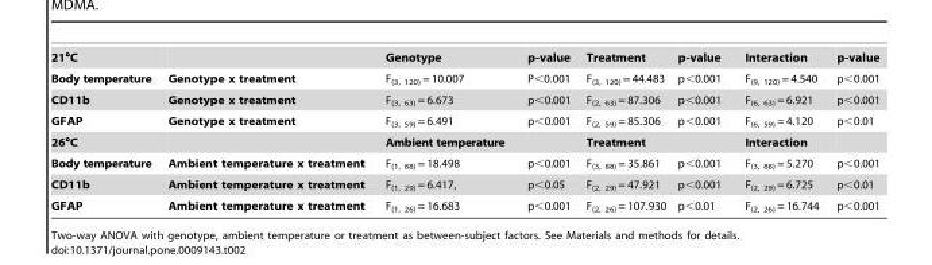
<table><tbody><tr><td>21°C</td><td></td><td>Genotype</td><td>p-value</td><td>Treatment</td><td>p-value</td><td>Interaction</td><td>p-value</td></tr><tr><td>Body temperature</td><td>Genotype x treatment</td><td>F<sub>(3, 120)</sub> = 10.007</td><td>P&lt;0.001</td><td>F<sub>(3, 120)</sub> = 44.483</td><td>p&lt;0.001</td><td>F<sub>(9, 120)</sub> = 4.540</td><td>p&lt;0.001</td></tr><tr><td>CD11b</td><td>Genotype x treatment</td><td>F<sub>(3, 63)</sub> = 6.673</td><td>p&lt;0.001</td><td>F<sub>(2, 63)</sub> = 87.306</td><td>p&lt;0.001</td><td>F<sub>(6, 63)</sub> = 6.921</td><td>p&lt;0.001</td></tr><tr><td>GFAP</td><td>Genotype x treatment</td><td>F<sub>(3, 59)</sub> = 6.491</td><td>p&lt;0.001</td><td>F<sub>(2, 59)</sub> = 85.306</td><td>p&lt;0.001</td><td>F<sub>(6, 59)</sub> = 4.120</td><td>p&lt;0.01</td></tr><tr><td>26°C</td><td></td><td>Ambient temperature</td><td></td><td>Treatment</td><td></td><td>Interaction</td><td></td></tr><tr><td>Body temperature</td><td>Ambient temperature x treatment</td><td>F<sub>(1, 88)</sub> = 18.498</td><td>p&lt;0.001</td><td>F<sub>(3, 88)</sub> = 35.861</td><td>p&lt;0.001</td><td>F<sub>(3, 88)</sub> = 5.270</td><td>p&lt;0.001</td></tr><tr><td>CD11b</td><td>Ambient temperature x treatment</td><td>F<sub>(1, 29)</sub> = 6.417,</td><td>p&lt;0.05</td><td>F<sub>(2, 29)</sub> = 47.921</td><td>p&lt;0.001</td><td>F<sub>(2, 29)</sub> = 6.725</td><td>p&lt;0.01</td></tr><tr><td>GFAP</td><td>Ambient temperature x treatment</td><td>F<sub>(1, 26)</sub> = 16.683</td><td>p&lt;0.001</td><td>F<sub>(2, 26)</sub> = 107.930</td><td>p&lt;0.01</td><td>F<sub>(2, 26)</sub> = 16.744</td><td>p&lt;0.001</td></tr></tbody></table>